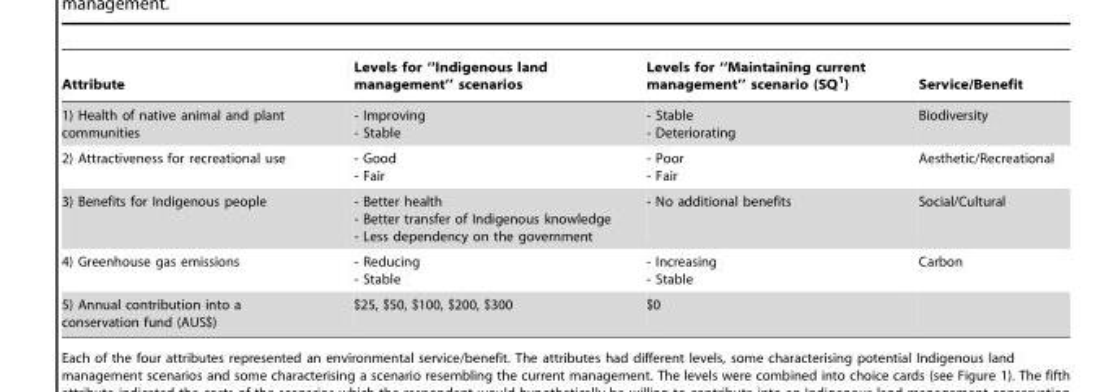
<table><thead><tr><td>Attribute</td><td>Levels for ‘‘Indigenous land management’’ scenarios</td><td>Levels for ‘‘Maintaining current management’’ scenario (SQ1)</td><td>Service/Benefit</td></tr></thead><tbody><tr><td>1) Health of native animal and plant communities</td><td>- Improving - Stable</td><td>- Stable - Deteriorating</td><td>Biodiversity</td></tr><tr><td>2) Attractiveness for recreational use</td><td>- Good - Fair</td><td>- Poor - Fair</td><td>Aesthetic/Recreational</td></tr><tr><td>3) Benefits for Indigenous people</td><td>- Better health - Better transfer of Indigenous knowledge - Less dependency on the government</td><td>- No additional benefits</td><td>Social/Cultural</td></tr><tr><td>4) Greenhouse gas emissions</td><td>- Reducing - Stable</td><td>- Increasing - Stable</td><td>Carbon</td></tr><tr><td>5) Annual contribution into a conservation fund (AUS$)</td><td>$25, $50, $100, $200, $300</td><td>$0</td><td></td></tr></tbody></table>